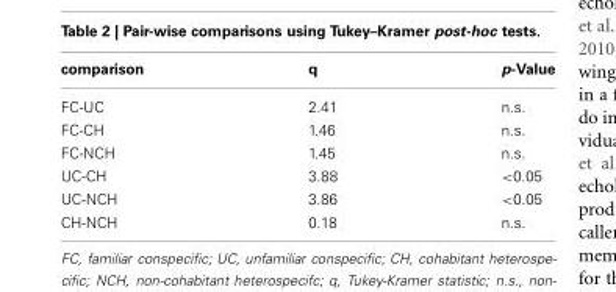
<table><thead><tr><td>comparison</td><td>q</td><td>p-Value</td></tr></thead><tbody><tr><td>FC-UC</td><td>2.41</td><td>n.s.</td></tr><tr><td>FC-CH</td><td>1.46</td><td>n.s.</td></tr><tr><td>FC-NCH</td><td>1.45</td><td>n.s.</td></tr><tr><td>UC-CH</td><td>3.88</td><td>&lt;0.05</td></tr><tr><td>UC-NCH</td><td>3.86</td><td>&lt;0.05</td></tr><tr><td>CH-NCH</td><td>0.18</td><td>n.s.</td></tr></tbody></table>